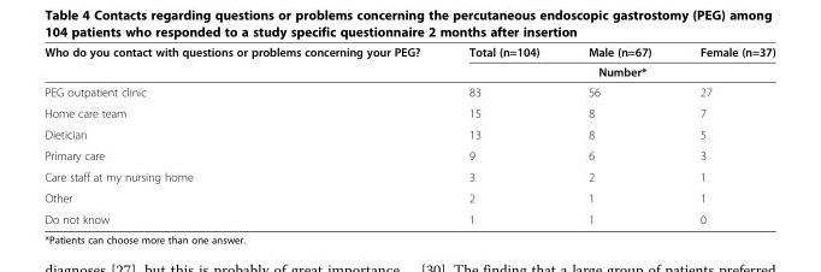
<table><thead><tr><td rowspan="2">Who do you contact with questions or problems concerning your PEG?</td><td>Total (n=104)</td><td>Male (n=67)</td><td>Female (n=37)</td></tr><tr><td colspan="3">Number*</td></tr></thead><tbody><tr><td>PEG outpatient clinic</td><td>83</td><td>56</td><td>27</td></tr><tr><td>Home care team</td><td>15</td><td>8</td><td>7</td></tr><tr><td>Dietician</td><td>13</td><td>8</td><td>5</td></tr><tr><td>Primary care</td><td>9</td><td>6</td><td>3</td></tr><tr><td>Care staff at my nursing home</td><td>3</td><td>2</td><td>1</td></tr><tr><td>Other</td><td>2</td><td>1</td><td>1</td></tr><tr><td>Do not know</td><td>1</td><td>1</td><td>0</td></tr></tbody></table>